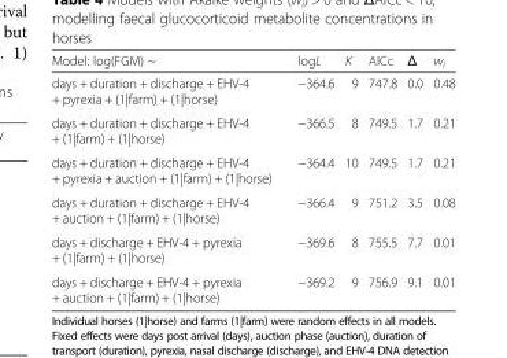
<table><thead><tr><td>Model: log(FGM) ~</td><td>logL</td><td>K</td><td>AICc</td><td>Δ</td><td>w<sub>i</sub></td></tr></thead><tbody><tr><td>days + duration + discharge + EHV-4 + pyrexia + (1|farm) + (1|horse)</td><td>−364.6</td><td>9</td><td>747.8</td><td>0.0</td><td>0.48</td></tr><tr><td>days + duration + discharge + EHV-4 + (1|farm) + (1|horse)</td><td>−366.5</td><td>8</td><td>749.5</td><td>1.7</td><td>0.21</td></tr><tr><td>days + duration + discharge + EHV-4 + pyrexia + auction + (1|farm) + (1|horse)</td><td>−364.4</td><td>10</td><td>749.5</td><td>1.7</td><td>0.21</td></tr><tr><td>days + duration + discharge + EHV-4 + auction + (1|farm) + (1|horse)</td><td>−366.4</td><td>9</td><td>751.2</td><td>3.5</td><td>0.08</td></tr><tr><td>days + discharge + EHV-4 + pyrexia + (1|farm) + (1|horse)</td><td>−369.6</td><td>8</td><td>755.5</td><td>7.7</td><td>0.01</td></tr><tr><td>days + discharge + EHV-4 + pyrexia + auction + (1|farm) + (1|horse)</td><td>−369.2</td><td>9</td><td>756.9</td><td>9.1</td><td>0.01</td></tr></tbody></table>